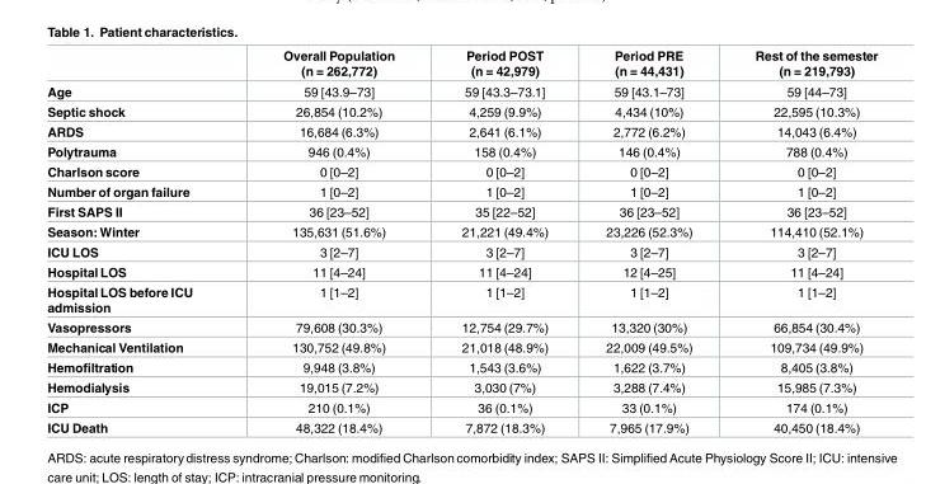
<table><thead><tr><td></td><td>Overall Population (n = 262,772)</td><td>Period POST (n = 42,979)</td><td>Period PRE (n = 44,431)</td><td>Rest of the semester (n = 219,793)</td></tr></thead><tbody><tr><td>Age</td><td>59 [43.9–73]</td><td>59 [43.3–73.1]</td><td>59 [43.1–73]</td><td>59 [44–73]</td></tr><tr><td>Septic shock</td><td>26,854 (10.2%)</td><td>4,259 (9.9%)</td><td>4,434 (10%)</td><td>22,595 (10.3%)</td></tr><tr><td>ARDS</td><td>16,684 (6.3%)</td><td>2,641 (6.1%)</td><td>2,772 (6.2%)</td><td>14,043 (6.4%)</td></tr><tr><td>Polytrauma</td><td>946 (0.4%)</td><td>158 (0.4%)</td><td>146 (0.4%)</td><td>788 (0.4%)</td></tr><tr><td>Charlson score</td><td>0 [0–2]</td><td>0 [0–2]</td><td>0 [0–2]</td><td>0 [0–2]</td></tr><tr><td>Number of organ failure</td><td>1 [0–2]</td><td>1 [0–2]</td><td>1 [0–2]</td><td>1 [0–2]</td></tr><tr><td>First SAPS II</td><td>36 [23–52]</td><td>35 [22–52]</td><td>36 [23–52]</td><td>36 [23–52]</td></tr><tr><td>Season: Winter</td><td>135,631 (51.6%)</td><td>21,221 (49.4%)</td><td>23,226 (52.3%)</td><td>114,410 (52.1%)</td></tr><tr><td>ICU LOS</td><td>3 [2–7]</td><td>3 [2–7]</td><td>3 [2–7]</td><td>3 [2–7]</td></tr><tr><td>Hospital LOS</td><td>11 [4–24]</td><td>11 [4–24]</td><td>12 [4–25]</td><td>11 [4–24]</td></tr><tr><td>Hospital LOS before ICU admission</td><td>1 [1–2]</td><td>1 [1–2]</td><td>1 [1–2]</td><td>1 [1–2]</td></tr><tr><td>Vasopressors</td><td>79,608 (30.3%)</td><td>12,754 (29.7%)</td><td>13,320 (30%)</td><td>66,854 (30.4%)</td></tr><tr><td>Mechanical Ventilation</td><td>130,752 (49.8%)</td><td>21,018 (48.9%)</td><td>22,009 (49.5%)</td><td>109,734 (49.9%)</td></tr><tr><td>Hemofiltration</td><td>9,948 (3.8%)</td><td>1,543 (3.6%)</td><td>1,622 (3.7%)</td><td>8,405 (3.8%)</td></tr><tr><td>Hemodialysis</td><td>19,015 (7.2%)</td><td>3,030 (7%)</td><td>3,288 (7.4%)</td><td>15,985 (7.3%)</td></tr><tr><td>ICP</td><td>210 (0.1%)</td><td>36 (0.1%)</td><td>33 (0.1%)</td><td>174 (0.1%)</td></tr><tr><td>ICU Death</td><td>48,322 (18.4%)</td><td>7,872 (18.3%)</td><td>7,965 (17.9%)</td><td>40,450 (18.4%)</td></tr></tbody></table>